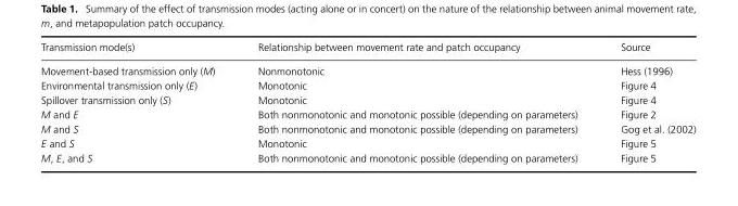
<table><thead><tr><td>Transmission mode(s)</td><td>Relationship between movement rate and patch occupancy</td><td>Source</td></tr></thead><tbody><tr><td>Movement-based transmission only (M)</td><td>Nonmonotonic</td><td>Hess (1996)</td></tr><tr><td>Environmental transmission only (E)</td><td>Monotonic</td><td>Figure 4</td></tr><tr><td>Spillover transmission only (S)</td><td>Monotonic</td><td>Figure 4</td></tr><tr><td>M and E</td><td>Both nonmonotonic and monotonic possible (depending on parameters)</td><td>Figure 2</td></tr><tr><td>M and S</td><td>Both nonmonotonic and monotonic possible (depending on parameters)</td><td>Gog et al. (2002)</td></tr><tr><td>E and S</td><td>Monotonic</td><td>Figure 5</td></tr><tr><td>M, E, and S</td><td>Both nonmonotonic and monotonic possible (depending on parameters)</td><td>Figure 5</td></tr></tbody></table>